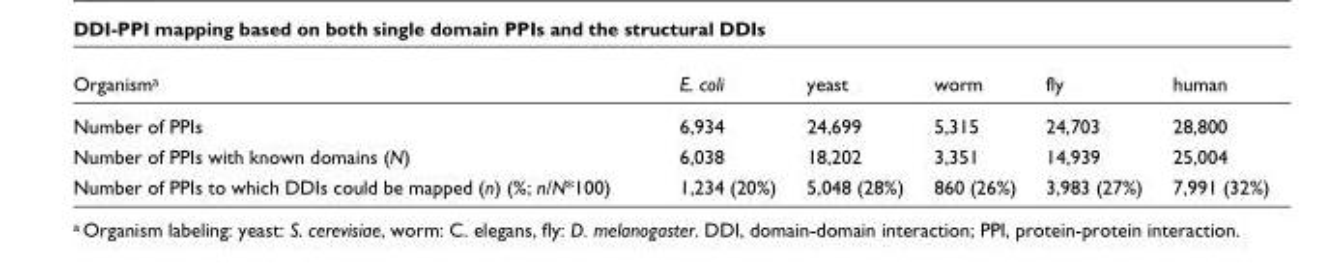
<table><thead><tr><td>Organisma</td><td>E. coli</td><td>yeast</td><td>worm</td><td>fly</td><td>human</td></tr></thead><tbody><tr><td>Number of PPIs</td><td>6,934</td><td>24,699</td><td>5,315</td><td>24,703</td><td>28,800</td></tr><tr><td>Number of PPIs with known domains (N)</td><td>6,038</td><td>18,202</td><td>3,351</td><td>14,939</td><td>25,004</td></tr><tr><td>Number of PPIs to which DDIs could be mapped (n) (%; n/N*100)</td><td>1,234 (20%)</td><td>5,048 (28%)</td><td>860 (26%)</td><td>3,983 (27%)</td><td>7,991 (32%)</td></tr></tbody></table>